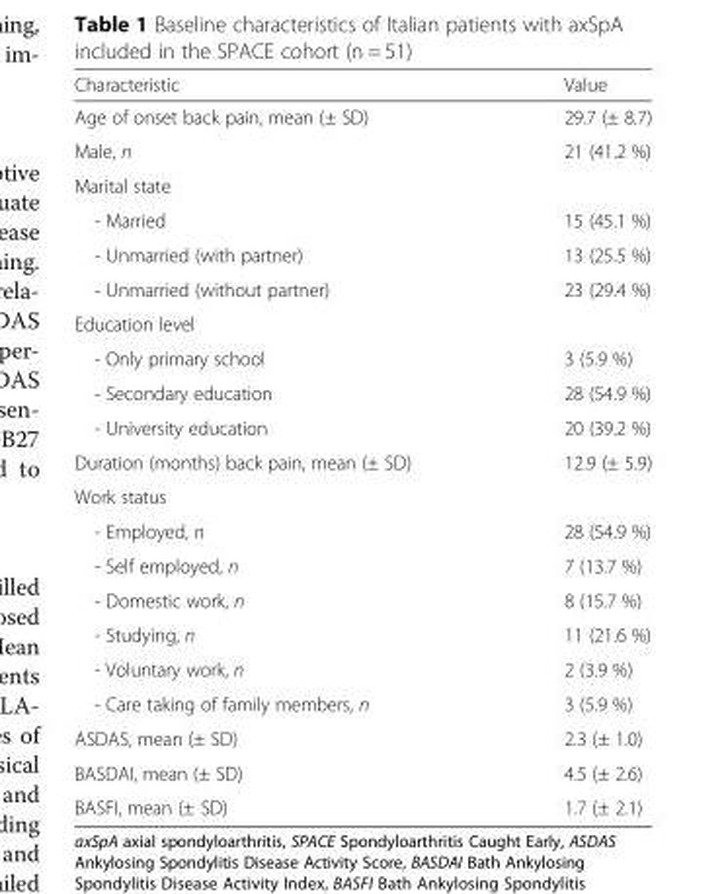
<table><thead><tr><td>Characteristic</td><td>Value</td></tr></thead><tbody><tr><td>Age of onset back pain, mean (± SD)</td><td>29.7 (± 8.7)</td></tr><tr><td>Male, n</td><td>21 (41.2 %)</td></tr><tr><td colspan="2">Marital state</td></tr><tr><td>- Married</td><td>15 (45.1 %)</td></tr><tr><td>- Unmarried (with partner)</td><td>13 (25.5 %)</td></tr><tr><td>- Unmarried (without partner)</td><td>23 (29.4 %)</td></tr><tr><td colspan="2">Education level</td></tr><tr><td>- Only primary school</td><td>3 (5.9 %)</td></tr><tr><td>- Secondary education</td><td>28 (54.9 %)</td></tr><tr><td>- University education</td><td>20 (39.2 %)</td></tr><tr><td>Duration (months) back pain, mean (± SD)</td><td>12.9 (± 5.9)</td></tr><tr><td colspan="2">Work status</td></tr><tr><td>- Employed, n</td><td>28 (54.9 %)</td></tr><tr><td>- Self employed, n</td><td>7 (13.7 %)</td></tr><tr><td>- Domestic work, n</td><td>8 (15.7 %)</td></tr><tr><td>- Studying, n</td><td>11 (21.6 %)</td></tr><tr><td>- Voluntary work, n</td><td>2 (3.9 %)</td></tr><tr><td>- Care taking of family members, n</td><td>3 (5.9 %)</td></tr><tr><td>ASDAS, mean (± SD)</td><td>2.3 (± 1.0)</td></tr><tr><td>BASDAI, mean (± SD)</td><td>4.5 (± 2.6)</td></tr><tr><td>BASFI, mean (± SD)</td><td>1.7 (± 2.1)</td></tr></tbody></table>